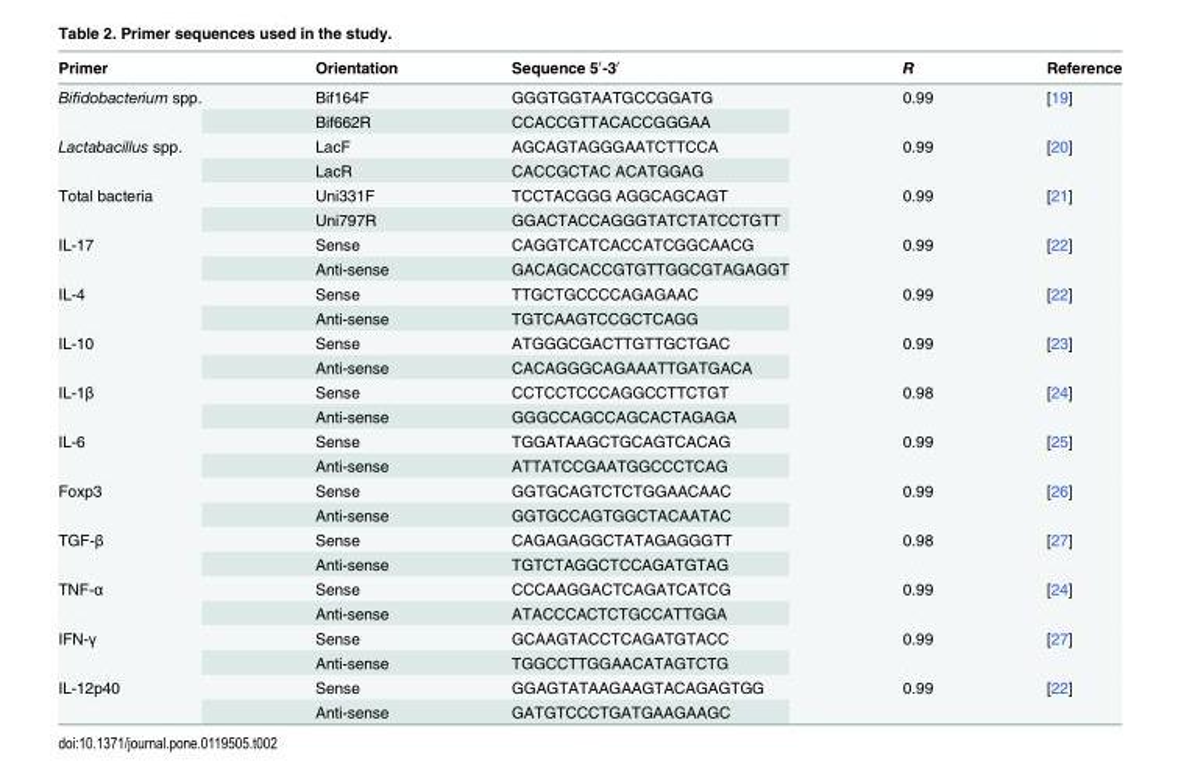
<table><thead><tr><td>Primer</td><td>Orientation</td><td>Sequence 5′-3′</td><td>R</td><td>Reference</td></tr></thead><tbody><tr><td rowspan="2">Bifidobacterium spp.</td><td>Bif164F</td><td>GGGTGGTAATGCCGGATG</td><td rowspan="2">0.99</td><td rowspan="2">[19]</td></tr><tr><td>Bif662R</td><td>CCACCGTTACACCGGGAA</td></tr><tr><td rowspan="2">Lactabacillus spp.</td><td>LacF</td><td>AGCAGTAGGGAATCTTCCA</td><td rowspan="2">0.99</td><td rowspan="2">[20]</td></tr><tr><td>LacR</td><td>CACCGCTAC ACATGGAG</td></tr><tr><td rowspan="2">Total bacteria</td><td>Uni331F</td><td>TCCTACGGG AGGCAGCAGT</td><td rowspan="2">0.99</td><td rowspan="2">[21]</td></tr><tr><td>Uni797R</td><td>GGACTACCAGGGTATCTATCCTGTT</td></tr><tr><td rowspan="2">IL-17</td><td>Sense</td><td>CAGGTCATCACCATCGGCAACG</td><td rowspan="2">0.99</td><td rowspan="2">[22]</td></tr><tr><td>Anti-sense</td><td>GACAGCACCGTGTTGGCGTAGAGGT</td></tr><tr><td rowspan="2">IL-4</td><td>Sense</td><td>TTGCTGCCCCAGAGAAC</td><td rowspan="2">0.99</td><td rowspan="2">[22]</td></tr><tr><td>Anti-sense</td><td>TGTCAAGTCCGCTCAGG</td></tr><tr><td rowspan="2">IL-10</td><td>Sense</td><td>ATGGGCGACTTGTTGCTGAC</td><td rowspan="2">0.99</td><td rowspan="2">[23]</td></tr><tr><td>Anti-sense</td><td>CACAGGGCAGAAATTGATGACA</td></tr><tr><td rowspan="2">IL-1β</td><td>Sense</td><td>CCTCCTCCCAGGCCTTCTGT</td><td rowspan="2">0.98</td><td rowspan="2">[24]</td></tr><tr><td>Anti-sense</td><td>GGGCCAGCCAGCACTAGAGA</td></tr><tr><td rowspan="2">IL-6</td><td>Sense</td><td>TGGATAAGCTGCAGTCACAG</td><td rowspan="2">0.99</td><td rowspan="2">[25]</td></tr><tr><td>Anti-sense</td><td>ATTATCCGAATGGCCCTCAG</td></tr><tr><td rowspan="2">Foxp3</td><td>Sense</td><td>GGTGCAGTCTCTGGAACAAC</td><td rowspan="2">0.99</td><td rowspan="2">[26]</td></tr><tr><td>Anti-sense</td><td>GGTGCCAGTGGCTACAATAC</td></tr><tr><td rowspan="2">TGF-β</td><td>Sense</td><td>CAGAGAGGCTATAGAGGGTT</td><td rowspan="2">0.98</td><td rowspan="2">[27]</td></tr><tr><td>Anti-sense</td><td>TGTCTAGGCTCCAGATGTAG</td></tr><tr><td rowspan="2">TNF-α</td><td>Sense</td><td>CCCAAGGACTCAGATCATCG</td><td rowspan="2">0.99</td><td rowspan="2">[24]</td></tr><tr><td>Anti-sense</td><td>ATACCCACTCTGCCATTGGA</td></tr><tr><td rowspan="2">IFN-γ</td><td>Sense</td><td>GCAAGTACCTCAGATGTACC</td><td rowspan="2">0.99</td><td rowspan="2">[27]</td></tr><tr><td>Anti-sense</td><td>TGGCCTTGGAACATAGTCTG</td></tr><tr><td rowspan="2">IL-12p40</td><td>Sense</td><td>GGAGTATAAGAAGTACAGAGTGG</td><td rowspan="2">0.99</td><td rowspan="2">[22]</td></tr><tr><td>Anti-sense</td><td>GATGTCCCTGATGAAGAAGC</td></tr></tbody></table>